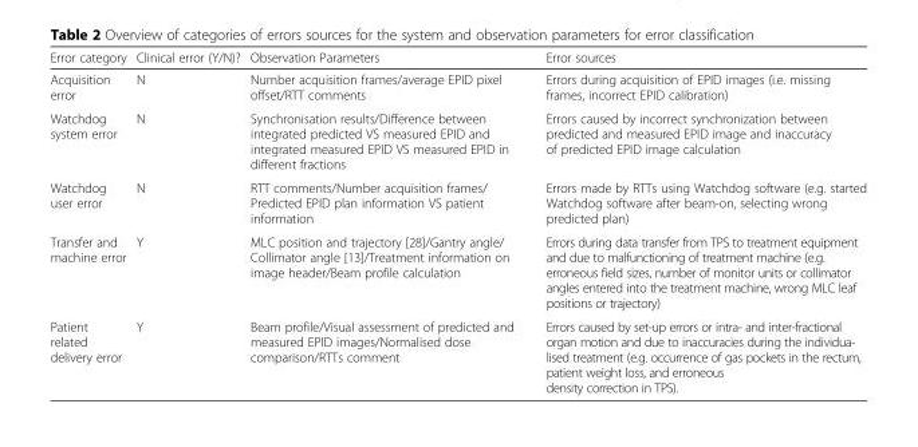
<table><thead><tr><td>Error category</td><td>Clinical error (Y/N)?</td><td>Observation Parameters</td><td>Error sources</td></tr></thead><tbody><tr><td>Acquisition error</td><td>N</td><td>Number acquisition frames/average EPID pixel offset/RTT comments</td><td>Errors during acquisition of EPID images (i.e. missing frames, incorrect EPID calibration)</td></tr><tr><td>Watchdog system error</td><td>N</td><td>Synchronisation results/Difference between integrated predicted VS measured EPID and integrated measured EPID VS measured EPID in different fractions</td><td>Errors caused by incorrect synchronization between predicted and measured EPID image and inaccuracy of predicted EPID image calculation</td></tr><tr><td>Watchdog user error</td><td>N</td><td>RTT comments/Number acquisition frames/ Predicted EPID plan information VS patient information</td><td>Errors made by RTTs using Watchdog software (e.g. started Watchdog software after beam-on, selecting wrong predicted plan)</td></tr><tr><td>Transfer and machine error</td><td>Y</td><td>MLC position and trajectory [28]/Gantry angle/ Collimator angle [13]/Treatment information on image header/Beam profile calculation</td><td>Errors during data transfer from TPS to treatment equipment and due to malfunctioning of treatment machine (e.g. erroneous field sizes, number of monitor units or collimator angles entered into the treatment machine, wrong MLC leaf positions or trajectory)</td></tr><tr><td>Patient related delivery error</td><td>Y</td><td>Beam profile/Visual assessment of predicted and measured EPID images/Normalised dose comparison/RTTs comment</td><td>Errors caused by set-up errors or intra- and inter-fractional organ motion and due to inaccuracies during the individua- lised treatment (e.g. occurrence of gas pockets in the rectum, patient weight loss, and erroneous density correction in TPS).</td></tr></tbody></table>